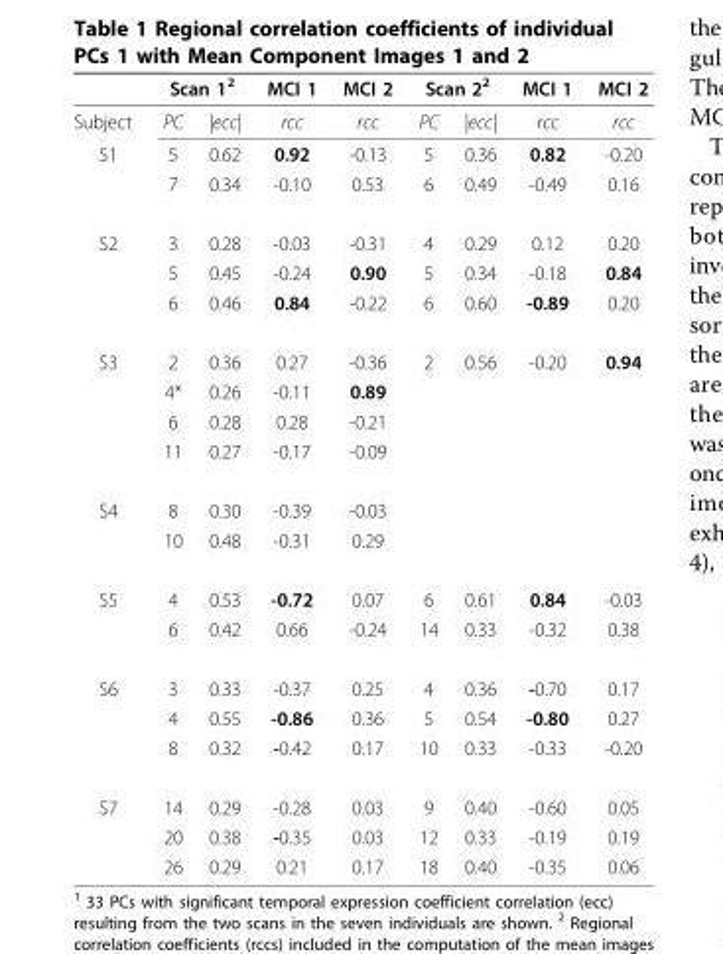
<table><thead><tr><td rowspan="2">Subject</td><td colspan="2">Scan 1<sup>2</sup></td><td rowspan="2">MCI 1 rcc</td><td rowspan="2">MCI 2 rcc</td><td colspan="2">Scan 2<sup>2</sup></td><td rowspan="2">MCI 1 rcc</td><td rowspan="2">MCI 2 rcc</td></tr><tr><td>PC</td><td>|ecc|</td><td>PC</td><td>|ecc|</td></tr></thead><tbody><tr><td rowspan="2">S1</td><td>5</td><td>0.62</td><td>0.92</td><td>-0.13</td><td>5</td><td>0.36</td><td>0.82</td><td>-0.20</td></tr><tr><td>7</td><td>0.34</td><td>-0.10</td><td>0.53</td><td>6</td><td>0.49</td><td>-0.49</td><td>0.16</td></tr><tr><td rowspan="3">S2</td><td>3</td><td>0.28</td><td>-0.03</td><td>-0.31</td><td>4</td><td>0.29</td><td>0.12</td><td>0.20</td></tr><tr><td>5</td><td>0.45</td><td>-0.24</td><td>0.90</td><td>5</td><td>0.34</td><td>-0.18</td><td>0.84</td></tr><tr><td>6</td><td>0.46</td><td>0.84</td><td>-0.22</td><td>6</td><td>0.60</td><td>-0.89</td><td>0.20</td></tr><tr><td rowspan="4">S3</td><td>2</td><td>0.36</td><td>0.27</td><td>-0.36</td><td>2</td><td>0.56</td><td>-0.20</td><td>0.94</td></tr><tr><td>4*</td><td>0.26</td><td>-0.11</td><td>0.89</td><td></td><td></td><td></td><td></td></tr><tr><td>6</td><td>0.28</td><td>0.28</td><td>-0.21</td><td></td><td></td><td></td><td></td></tr><tr><td>11</td><td>0.27</td><td>-0.17</td><td>-0.09</td><td></td><td></td><td></td><td></td></tr><tr><td rowspan="2">S4</td><td>8</td><td>0.30</td><td>-0.39</td><td>-0.03</td><td></td><td></td><td></td><td></td></tr><tr><td>10</td><td>0.48</td><td>-0.31</td><td>0.29</td><td></td><td></td><td></td><td></td></tr><tr><td rowspan="2">S5</td><td>4</td><td>0.53</td><td>-0.72</td><td>0.07</td><td>6</td><td>0.61</td><td>0.84</td><td>-0.03</td></tr><tr><td>6</td><td>0.42</td><td>0.66</td><td>-0.24</td><td>14</td><td>0.33</td><td>-0.32</td><td>0.38</td></tr><tr><td rowspan="3">S6</td><td>3</td><td>0.33</td><td>-0.37</td><td>0.25</td><td>4</td><td>0.36</td><td>-0.70</td><td>0.17</td></tr><tr><td>4</td><td>0.55</td><td>-0.86</td><td>0.36</td><td>5</td><td>0.54</td><td>-0.80</td><td>0.27</td></tr><tr><td>8</td><td>0.32</td><td>-0.42</td><td>0.17</td><td>10</td><td>0.33</td><td>-0.33</td><td>-0.20</td></tr><tr><td rowspan="3">S7</td><td>14</td><td>0.29</td><td>-0.28</td><td>0.03</td><td>9</td><td>0.40</td><td>-0.60</td><td>0.05</td></tr><tr><td>20</td><td>0.38</td><td>-0.35</td><td>0.03</td><td>12</td><td>0.33</td><td>-0.19</td><td>0.19</td></tr><tr><td>26</td><td>0.29</td><td>0.21</td><td>0.17</td><td>18</td><td>0.40</td><td>-0.35</td><td>0.06</td></tr></tbody></table>